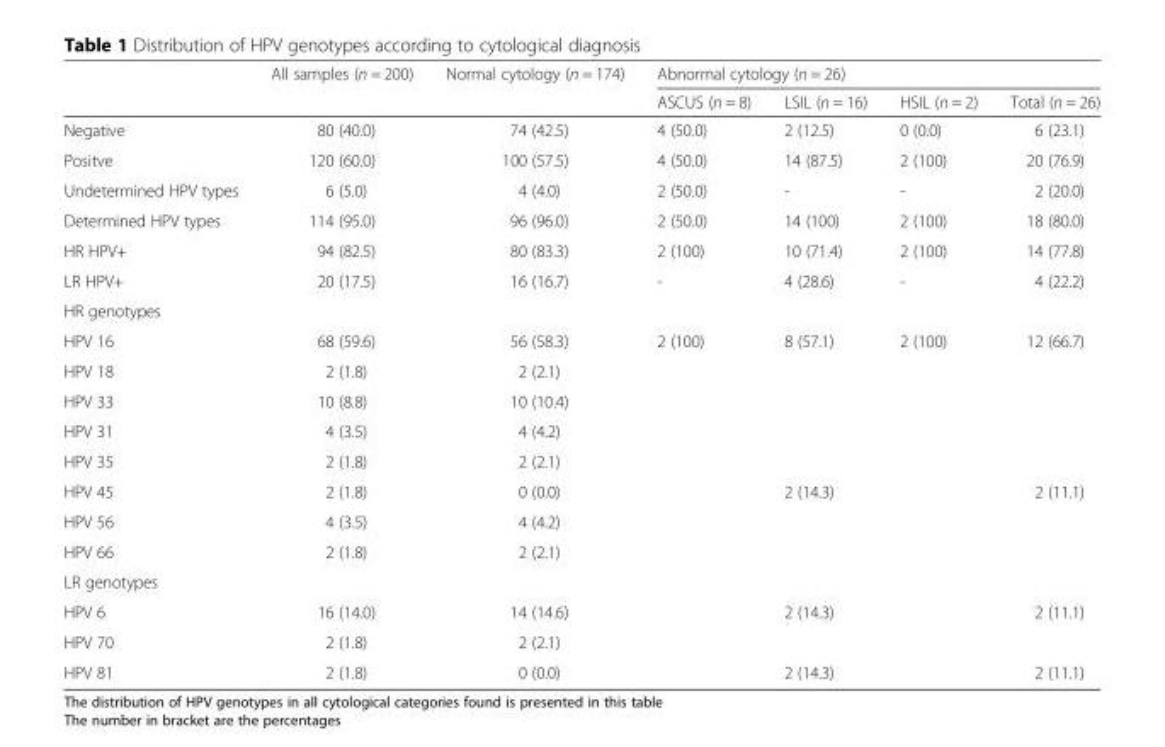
<table><thead><tr><td rowspan="2"></td><td rowspan="2">All samples (n = 200)</td><td rowspan="2">Normal cytology (n = 174)</td><td colspan="4">Abnormal cytology (n = 26)</td></tr><tr><td>ASCUS (n = 8)</td><td>LSIL (n = 16)</td><td>HSIL (n = 2)</td><td>Total (n = 26)</td></tr></thead><tbody><tr><td>Negative</td><td>80 (40.0)</td><td>74 (42.5)</td><td>4 (50.0)</td><td>2 (12.5)</td><td>0 (0.0)</td><td>6 (23.1)</td></tr><tr><td>Positve</td><td>120 (60.0)</td><td>100 (57.5)</td><td>4 (50.0)</td><td>14 (87.5)</td><td>2 (100)</td><td>20 (76.9)</td></tr><tr><td>Undetermined HPV types</td><td>6 (5.0)</td><td>4 (4.0)</td><td>2 (50.0)</td><td>-</td><td>-</td><td>2 (20.0)</td></tr><tr><td>Determined HPV types</td><td>114 (95.0)</td><td>96 (96.0)</td><td>2 (50.0)</td><td>14 (100)</td><td>2 (100)</td><td>18 (80.0)</td></tr><tr><td>HR HPV+</td><td>94 (82.5)</td><td>80 (83.3)</td><td>2 (100)</td><td>10 (71.4)</td><td>2 (100)</td><td>14 (77.8)</td></tr><tr><td>LR HPV+</td><td>20 (17.5)</td><td>16 (16.7)</td><td>-</td><td>4 (28.6)</td><td>-</td><td>4 (22.2)</td></tr><tr><td colspan="7">HR genotypes</td></tr><tr><td>HPV 16</td><td>68 (59.6)</td><td>56 (58.3)</td><td>2 (100)</td><td>8 (57.1)</td><td>2 (100)</td><td>12 (66.7)</td></tr><tr><td>HPV 18</td><td>2 (1.8)</td><td>2 (2.1)</td><td></td><td></td><td></td><td></td></tr><tr><td>HPV 33</td><td>10 (8.8)</td><td>10 (10.4)</td><td></td><td></td><td></td><td></td></tr><tr><td>HPV 31</td><td>4 (3.5)</td><td>4 (4.2)</td><td></td><td></td><td></td><td></td></tr><tr><td>HPV 35</td><td>2 (1.8)</td><td>2 (2.1)</td><td></td><td></td><td></td><td></td></tr><tr><td>HPV 45</td><td>2 (1.8)</td><td>0 (0.0)</td><td></td><td>2 (14.3)</td><td></td><td>2 (11.1)</td></tr><tr><td>HPV 56</td><td>4 (3.5)</td><td>4 (4.2)</td><td></td><td></td><td></td><td></td></tr><tr><td>HPV 66</td><td>2 (1.8)</td><td>2 (2.1)</td><td></td><td></td><td></td><td></td></tr><tr><td colspan="7">LR genotypes</td></tr><tr><td>HPV 6</td><td>16 (14.0)</td><td>14 (14.6)</td><td></td><td>2 (14.3)</td><td></td><td>2 (11.1)</td></tr><tr><td>HPV 70</td><td>2 (1.8)</td><td>2 (2.1)</td><td></td><td></td><td></td><td></td></tr><tr><td>HPV 81</td><td>2 (1.8)</td><td>0 (0.0)</td><td></td><td>2 (14.3)</td><td></td><td>2 (11.1)</td></tr></tbody></table>